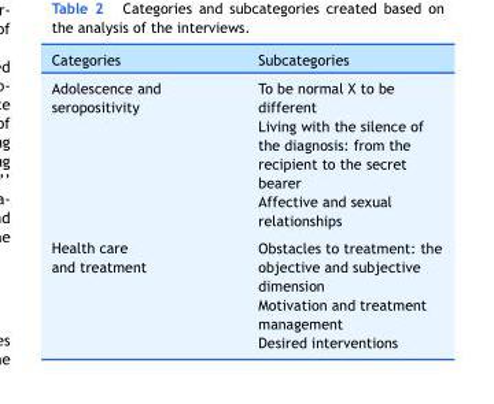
<table><thead><tr><td>Categories</td><td>Subcategories</td></tr></thead><tbody><tr><td rowspan="3">Adolescence and seropositivity</td><td>To be normal X to be different</td></tr><tr><td>Living with the silence of the diagnosis: from the recipient to the secret bearer</td></tr><tr><td>Affective and sexual relationships</td></tr><tr><td rowspan="3">Health care and treatment</td><td>Obstacles to treatment: the objective and subjective dimension</td></tr><tr><td>Motivation and treatment management</td></tr><tr><td>Desired interventions</td></tr></tbody></table>